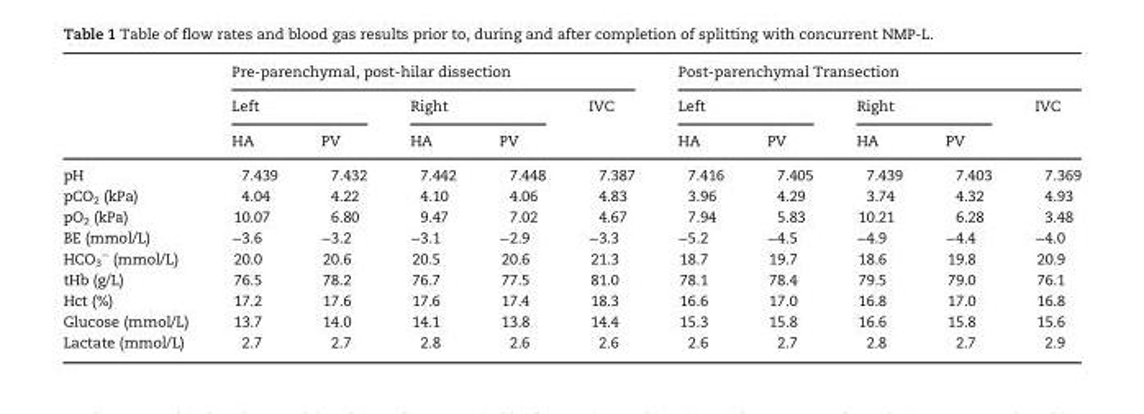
<table><thead><tr><td rowspan="3"></td><td colspan="5">Pre-parenchymal, post-hilar dissection</td><td colspan="5">Post-parenchymal Transection</td></tr><tr><td colspan="2">Left</td><td colspan="2">Right</td><td rowspan="2">IVC</td><td colspan="2">Left</td><td colspan="2">Right</td><td rowspan="2">IVC</td></tr><tr><td>HA</td><td>PV</td><td>HA</td><td>PV</td><td>HA</td><td>PV</td><td>HA</td><td>PV</td></tr></thead><tbody><tr><td>pH</td><td>7.439</td><td>7.432</td><td>7.442</td><td>7.448</td><td>7.387</td><td>7.416</td><td>7.405</td><td>7.439</td><td>7.403</td><td>7.369</td></tr><tr><td>pCO<sub>2</sub> (kPa)</td><td>4.04</td><td>4.22</td><td>4.10</td><td>4.06</td><td>4.83</td><td>3.96</td><td>4.29</td><td>3.74</td><td>4.32</td><td>4.93</td></tr><tr><td>pO<sub>2</sub> (kPa)</td><td>10.07</td><td>6.80</td><td>9.47</td><td>7.02</td><td>4.67</td><td>7.94</td><td>5.83</td><td>10.21</td><td>6.28</td><td>3.48</td></tr><tr><td>BE (mmol/L)</td><td>−3.6</td><td>−3.2</td><td>−3.1</td><td>−2.9</td><td>−3.3</td><td>−5.2</td><td>−4.5</td><td>−4.9</td><td>−4.4</td><td>−4.0</td></tr><tr><td>HCO<sub>3</sub> <sup>−</sup> (mmol/L)</td><td>20.0</td><td>20.6</td><td>20.5</td><td>20.6</td><td>21.3</td><td>18.7</td><td>19.7</td><td>18.6</td><td>19.8</td><td>20.9</td></tr><tr><td>tHb (g/L)</td><td>76.5</td><td>78.2</td><td>76.7</td><td>77.5</td><td>81.0</td><td>78.1</td><td>78.4</td><td>79.5</td><td>79.0</td><td>76.1</td></tr><tr><td>Hct (%)</td><td>17.2</td><td>17.6</td><td>17.6</td><td>17.4</td><td>18.3</td><td>16.6</td><td>17.0</td><td>16.8</td><td>17.0</td><td>16.8</td></tr><tr><td>Glucose (mmol/L)</td><td>13.7</td><td>14.0</td><td>14.1</td><td>13.8</td><td>14.4</td><td>15.3</td><td>15.8</td><td>16.6</td><td>15.8</td><td>15.6</td></tr><tr><td>Lactate (mmol/L)</td><td>2.7</td><td>2.7</td><td>2.8</td><td>2.6</td><td>2.6</td><td>2.6</td><td>2.7</td><td>2.8</td><td>2.7</td><td>2.9</td></tr></tbody></table>